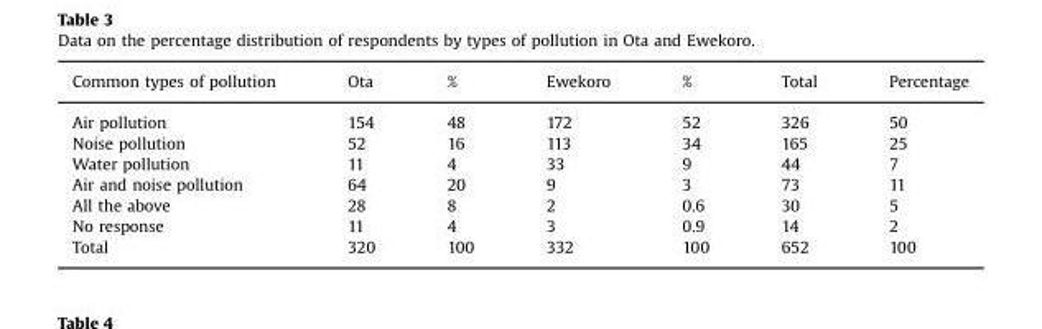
<table><thead><tr><td>Common types of pollution</td><td>Ota</td><td>%</td><td>Ewekoro</td><td>%</td><td>Total</td><td>Percentage</td></tr></thead><tbody><tr><td>Air pollution</td><td>154</td><td>48</td><td>172</td><td>52</td><td>326</td><td>50</td></tr><tr><td>Noise pollution</td><td>52</td><td>16</td><td>113</td><td>34</td><td>165</td><td>25</td></tr><tr><td>Water pollution</td><td>11</td><td>4</td><td>33</td><td>9</td><td>44</td><td>7</td></tr><tr><td>Air and noise pollution</td><td>64</td><td>20</td><td>9</td><td>3</td><td>73</td><td>11</td></tr><tr><td>All the above</td><td>28</td><td>8</td><td>2</td><td>0.6</td><td>30</td><td>5</td></tr><tr><td>No response</td><td>11</td><td>4</td><td>3</td><td>0.9</td><td>14</td><td>2</td></tr><tr><td>Total</td><td>320</td><td>100</td><td>332</td><td>100</td><td>652</td><td>100</td></tr></tbody></table>